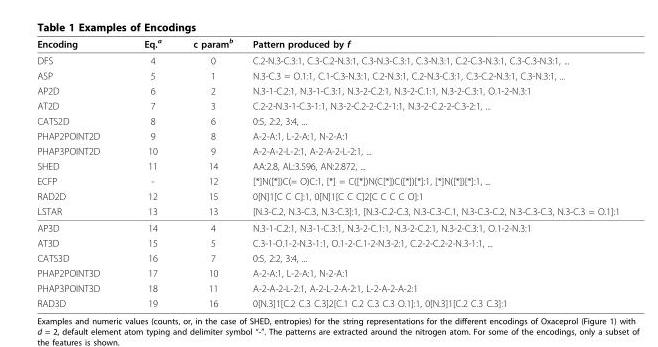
<table><thead><tr><td>Encoding</td><td>Eq.<sup>a</sup></td><td>c param<sup>b</sup></td><td>Pattern produced by f</td></tr></thead><tbody><tr><td>DFS</td><td>4</td><td>0</td><td>C.2-N.3-C.3:1, C.3-C.2-N.3:1, C.3-N.3-C.3:1, C.3-N.3:1, C.2-C.3-N.3:1, C.3-C.3-N.3:1, ...</td></tr><tr><td>ASP</td><td>5</td><td>1</td><td>N.3-C.3 = O.1:1, C.1-C.3-N.3:1, C.2-N.3:1, C.2-N.3-C.3:1, C.3-C.2-N.3:1, C.3-N.3:1, ...</td></tr><tr><td>AP2D</td><td>6</td><td>2</td><td>N.3-1-C.2:1, N.3-1-C.3:1, N.3-2-C.2:1, N.3-2-C.1:1, N.3-2-C.3:1, O.1-2-N.3:1</td></tr><tr><td>AT2D</td><td>7</td><td>3</td><td>C.2-2-N.3-1-C.3-1:1, N.3-2-C.2-2-C.2-1:1, N.3-2-C.2-2-C.3-2:1, ...</td></tr><tr><td>CATS2D</td><td>8</td><td>6</td><td>0:5, 2:2, 3:4, ...</td></tr><tr><td>PHAP2POINT2D</td><td>9</td><td>8</td><td>A-2-A:1, L-2-A:1, N-2-A:1</td></tr><tr><td>PHAP3POINT2D</td><td>10</td><td>9</td><td>A-2-A-2-L-2:1, A-2-A-2-L-2:1, ...</td></tr><tr><td>SHED</td><td>11</td><td>14</td><td>AA:2.8, AL:3.596, AN:2.872, ...</td></tr><tr><td>ECFP</td><td>-</td><td>12</td><td>[*]N([*])C(= O)C:1, [*] = C([*])N(C[*])C([*])[*]:1, [*]N([*])[*]:1, ...</td></tr><tr><td>RAD2D</td><td>12</td><td>15</td><td>0[N]1[C C C]:1, 0[N]1[C C C]2[C C C C O]:1</td></tr><tr><td>LSTAR</td><td>13</td><td>13</td><td>[N.3-C.2, N.3-C.3, N.3-C.3]:1, [N.3-C.2-C.3, N.3-C.3-C.1, N.3-C.3-C.2, N.3-C.3-C.3, N.3-C.3 = O.1]:1</td></tr><tr><td>AP3D</td><td>14</td><td>4</td><td>N.3-1-C.2:1, N.3-1-C.3:1, N.3-2-C.1:1, N.3-2-C.2:1, N.3-2-C.3:1, O.1-2-N.3:1</td></tr><tr><td>AT3D</td><td>15</td><td>5</td><td>C.3-1-O.1-2-N.3-1:1, O.1-2-C.1-2-N.3-2:1, C.2-2-C.2-2-N.3-1:1, ...</td></tr><tr><td>CATS3D</td><td>16</td><td>7</td><td>0:5, 2:2, 3:4, ...</td></tr><tr><td>PHAP2POINT3D</td><td>17</td><td>10</td><td>A-2-A:1, L-2-A:1, N-2-A:1</td></tr><tr><td>PHAP3POINT3D</td><td>18</td><td>11</td><td>A-2-A-2-L-2:1, A-2-L-2-A-2:1, L-2-A-2-A-2:1</td></tr><tr><td>RAD3D</td><td>19</td><td>16</td><td>0[N.3]1[C.2 C.3 C.3]2[C.1 C.2 C.3 C.3 O.1]:1, 0[N.3]1[C.2 C.3 C.3]:1</td></tr></tbody></table>